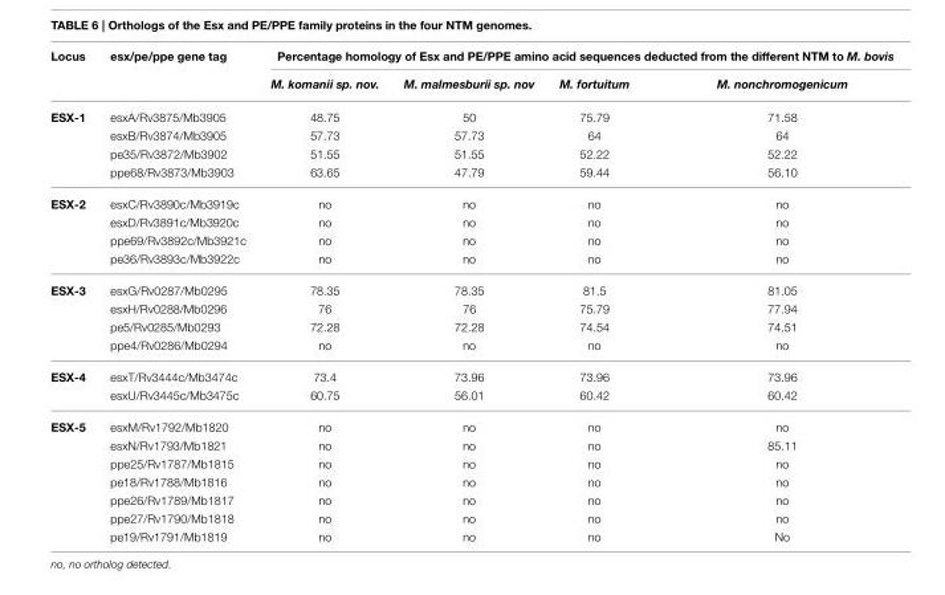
<table><thead><tr><td rowspan="2">Locus</td><td rowspan="2">esx/pe/ppe gene tag</td><td colspan="4">Percentage homology of Esx and PE/PPE amino acid sequences deducted from the different NTM to M. bovis</td></tr><tr><td>M. komanii sp. nov.</td><td>M. malmesburii sp. nov</td><td>M. fortuitum</td><td>M. nonchromogenicum</td></tr></thead><tbody><tr><td rowspan="4">ESX-1</td><td>esxA/Rv3875/Mb3905</td><td>48.75</td><td>50</td><td>75.79</td><td>71.58</td></tr><tr><td>esxB/Rv3874/Mb3905</td><td>57.73</td><td>57.73</td><td>64</td><td>64</td></tr><tr><td>pe35/Rv3872/Mb3902</td><td>51.55</td><td>51.55</td><td>52.22</td><td>52.22</td></tr><tr><td>ppe68/Rv3873/Mb3903</td><td>63.65</td><td>47.79</td><td>59.44</td><td>56.10</td></tr><tr><td rowspan="4">ESX-2</td><td>esxC/Rv3890c/Mb3919c</td><td>no</td><td>no</td><td>no</td><td>no</td></tr><tr><td>esxD/Rv3891c/Mb3920c</td><td>no</td><td>no</td><td>no</td><td>no</td></tr><tr><td>ppe69/Rv3892c/Mb3921c</td><td>no</td><td>no</td><td>no</td><td>no</td></tr><tr><td>pe36/Rv3893c/Mb3922c</td><td>no</td><td>no</td><td>no</td><td>no</td></tr><tr><td rowspan="4">ESX-3</td><td>esxG/Rv0287/Mb0295</td><td>78.35</td><td>78.35</td><td>81.5</td><td>81.05</td></tr><tr><td>esxH/Rv0288/Mb0296</td><td>76</td><td>76</td><td>75.79</td><td>77.94</td></tr><tr><td>pe5/Rv0285/Mb0293</td><td>72.28</td><td>72.28</td><td>74.54</td><td>74.51</td></tr><tr><td>ppe4/Rv0286/Mb0294</td><td>no</td><td>no</td><td>no</td><td>no</td></tr><tr><td rowspan="2">ESX-4</td><td>esxT/Rv3444c/Mb3474c</td><td>73.4</td><td>73.96</td><td>73.96</td><td>73.96</td></tr><tr><td>esxU/Rv3445c/Mb3475c</td><td>60.75</td><td>56.01</td><td>60.42</td><td>60.42</td></tr><tr><td rowspan="7">ESX-5</td><td>esxM/Rv1792/Mb1820</td><td>no</td><td>no</td><td>no</td><td>no</td></tr><tr><td>esxN/Rv1793/Mb1821</td><td>no</td><td>no</td><td>no</td><td>85.11</td></tr><tr><td>ppe25/Rv1787/Mb1815</td><td>no</td><td>no</td><td>no</td><td>no</td></tr><tr><td>pe18/Rv1788/Mb1816</td><td>no</td><td>no</td><td>no</td><td>no</td></tr><tr><td>ppe26/Rv1789/Mb1817</td><td>no</td><td>no</td><td>no</td><td>no</td></tr><tr><td>ppe27/Rv1790/Mb1818</td><td>no</td><td>no</td><td>no</td><td>no</td></tr><tr><td>pe19/Rv1791/Mb1819</td><td>no</td><td>no</td><td>no</td><td>No</td></tr></tbody></table>